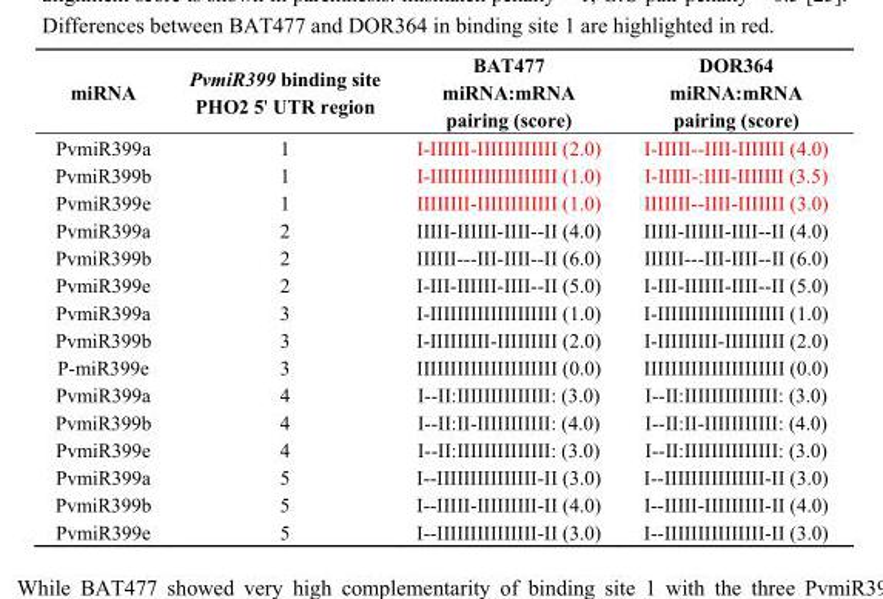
<table><thead><tr><td>miRNA</td><td>PvmiR399 binding site PHO2 5&#x27; UTR region</td><td>BAT477 miRNA:mRNA pairing (score)</td><td>DOR364 miRNA:mRNA pairing (score)</td></tr></thead><tbody><tr><td>PvmiR399a</td><td>1</td><td>I-IIIIII-IIIIIIIIIIII (2.0)</td><td>I-IIIII--IIII-IIIIIII (4.0)</td></tr><tr><td>PvmiR399b</td><td>1</td><td>I-IIIIIIIIIIIIIIIIIII (1.0)</td><td>I-IIIII-:IIII-IIIIIII (3.5)</td></tr><tr><td>PvmiR399e</td><td>1</td><td>IIIIIIII-IIIIIIIIIIII (1.0)</td><td>IIIIIII--IIII-IIIIIII (3.0)</td></tr><tr><td>PvmiR399a</td><td>2</td><td>IIIII-IIIIII-IIII--II (4.0)</td><td>IIIII-IIIIII-IIII--II (4.0)</td></tr><tr><td>PvmiR399b</td><td>2</td><td>IIIIII---III-IIII--II (6.0)</td><td>IIIIII---III-IIII--II (6.0)</td></tr><tr><td>PvmiR399e</td><td>2</td><td>I-III-IIIIII-IIII--II (5.0)</td><td>I-III-IIIIII-IIII--II (5.0)</td></tr><tr><td>PvmiR399a</td><td>3</td><td>I-IIIIIIIIIIIIIIIIIII (1.0)</td><td>I-IIIIIIIIIIIIIIIIIII (1.0)</td></tr><tr><td>PvmiR399b</td><td>3</td><td>I-IIIIIIIII-IIIIIIIII (2.0)</td><td>I-IIIIIIIII-IIIIIIIII (2.0)</td></tr><tr><td>P-miR399e</td><td>3</td><td>IIIIIIIIIIIIIIIIIIIII (0.0)</td><td>IIIIIIIIIIIIIIIIIIIII (0.0)</td></tr><tr><td>PvmiR399a</td><td>4</td><td>I--II:IIIIIIIIIIIIII: (3.0)</td><td>I--II:IIIIIIIIIIIIII: (3.0)</td></tr><tr><td>PvmiR399b</td><td>4</td><td>I--II:II-IIIIIIIIIII: (4.0)</td><td>I--II:II-IIIIIIIIIII: (4.0)</td></tr><tr><td>PvmiR399e</td><td>4</td><td>I--II:IIIIIIIIIIIIII: (3.0)</td><td>I--II:IIIIIIIIIIIIII: (3.0)</td></tr><tr><td>PvmiR399a</td><td>5</td><td>I--IIIIIIIIIIIIIII-II (3.0)</td><td>I--IIIIIIIIIIIIIII-II (3.0)</td></tr><tr><td>PvmiR399b</td><td>5</td><td>I--IIIII-IIIIIIIII-II (4.0)</td><td>I--IIIII-IIIIIIIII-II (4.0)</td></tr><tr><td>PvmiR399e</td><td>5</td><td>I--IIIIIIIIIIIIIII-II (3.0)</td><td>I--IIIIIIIIIIIIIII-II (3.0)</td></tr></tbody></table>